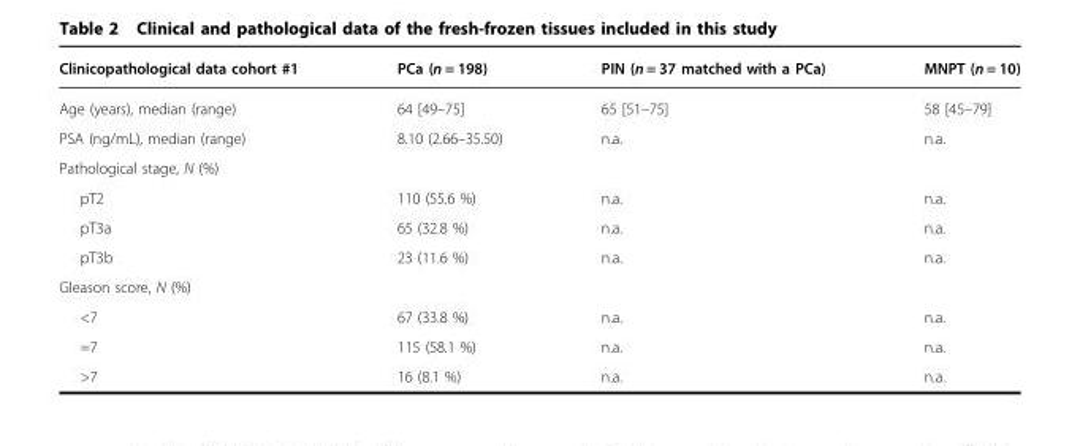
<table><thead><tr><td>Clinicopathological data cohort #1</td><td>PCa (n = 198)</td><td>PIN (n = 37 matched with a PCa)</td><td>MNPT (n = 10)</td></tr></thead><tbody><tr><td>Age (years), median (range)</td><td>64 [49–75]</td><td>65 [51–75]</td><td>58 [45–79]</td></tr><tr><td>PSA (ng/mL), median (range)</td><td>8.10 (2.66–35.50)</td><td>n.a.</td><td>n.a.</td></tr><tr><td colspan="4">Pathological stage, N (%)</td></tr><tr><td>pT2</td><td>110 (55.6 %)</td><td>n.a.</td><td>n.a.</td></tr><tr><td>pT3a</td><td>65 (32.8 %)</td><td>n.a.</td><td>n.a.</td></tr><tr><td>pT3b</td><td>23 (11.6 %)</td><td>n.a.</td><td>n.a.</td></tr><tr><td colspan="4">Gleason score, N (%)</td></tr><tr><td>&lt;7</td><td>67 (33.8 %)</td><td>n.a.</td><td>n.a.</td></tr><tr><td>=7</td><td>115 (58.1 %)</td><td>n.a.</td><td>n.a.</td></tr><tr><td>&gt;7</td><td>16 (8.1 %)</td><td>n.a.</td><td>n.a.</td></tr></tbody></table>